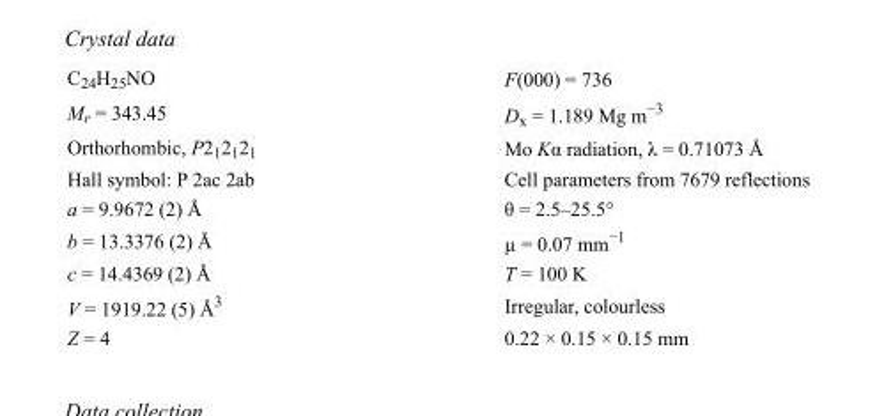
<table><tbody><tr><td>C<sub>24</sub>H<sub>25</sub>NO</td><td>F(000) = 736</td></tr><tr><td>M<sub>r</sub> = 343.45</td><td>D<sub>x</sub> = 1.189 Mg m<sup>−3</sup></td></tr><tr><td>Orthorhombic, P2<sub>1</sub>2<sub>1</sub>2<sub>1</sub></td><td>Mo Kα radiation, λ = 0.71073 Å</td></tr><tr><td>Hall symbol: P 2ac 2ab</td><td>Cell parameters from 7679 reflections</td></tr><tr><td>a = 9.9672 (2) Å</td><td>θ = 2.5–25.5°</td></tr><tr><td>b = 13.3376 (2) Å</td><td>µ = 0.07 mm<sup>−1</sup></td></tr><tr><td>c = 14.4369 (2) Å</td><td>T = 100 K</td></tr><tr><td>V = 1919.22 (5) Å<sup>3</sup></td><td>Irregular, colourless</td></tr><tr><td>Z = 4</td><td>0.22 × 0.15 × 0.15 mm</td></tr></tbody></table>